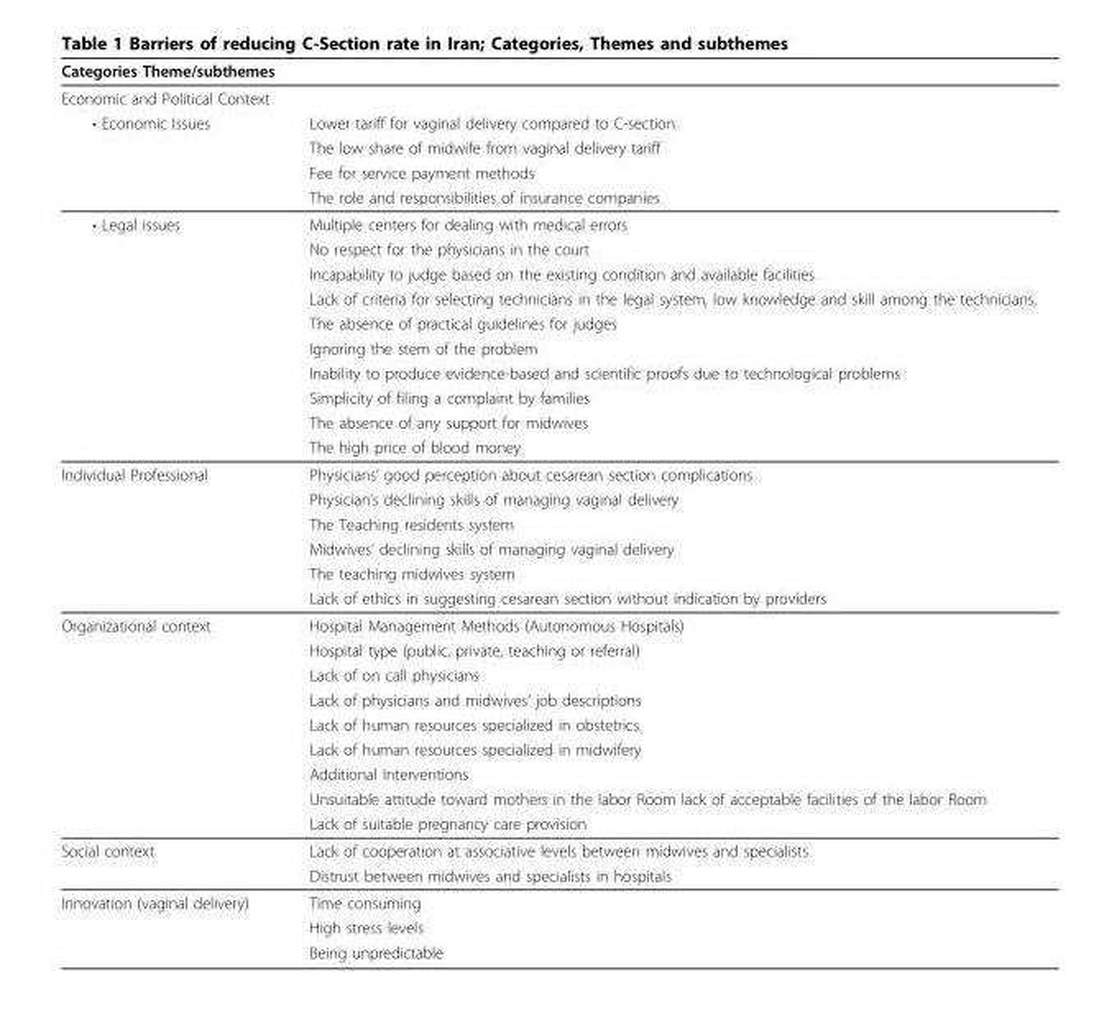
<table><thead><tr><td>Categories Theme/subthemes</td><td></td></tr></thead><tbody><tr><td colspan="2">Economic and Political Context</td></tr><tr><td rowspan="4">• Economic Issues</td><td>Lower tariff for vaginal delivery compared to C-section</td></tr><tr><td>The low share of midwife from vaginal delivery tariff</td></tr><tr><td>Fee for service payment methods</td></tr><tr><td>The role and responsibilities of insurance companies</td></tr><tr><td rowspan="10">• Legal issues</td><td>Multiple centers for dealing with medical errors</td></tr><tr><td>No respect for the physicians in the court</td></tr><tr><td>Incapability to judge based on the existing condition and available facilities</td></tr><tr><td>Lack of criteria for selecting technicians in the legal system, low knowledge and skill among the technicians,</td></tr><tr><td>The absence of practical guidelines for judges</td></tr><tr><td>Ignoring the stem of the problem</td></tr><tr><td>Inability to produce evidence-based and scientific proofs due to technological problems</td></tr><tr><td>Simplicity of filing a complaint by families</td></tr><tr><td>The absence of any support for midwives</td></tr><tr><td>The high price of blood money</td></tr><tr><td rowspan="6">Individual Professional</td><td>Physicians’ good perception about cesarean section complications</td></tr><tr><td>Physician’s declining skills of managing vaginal delivery</td></tr><tr><td>The Teaching residents system</td></tr><tr><td>Midwives’ declining skills of managing vaginal delivery</td></tr><tr><td>The teaching midwives system</td></tr><tr><td>Lack of ethics in suggesting cesarean section without indication by providers</td></tr><tr><td rowspan="9">Organizational context</td><td>Hospital Management Methods (Autonomous Hospitals)</td></tr><tr><td>Hospital type (public, private, teaching or referral)</td></tr><tr><td>Lack of on call physicians</td></tr><tr><td>Lack of physicians and midwives’ job descriptions</td></tr><tr><td>Lack of human resources specialized in obstetrics</td></tr><tr><td>Lack of human resources specialized in midwifery</td></tr><tr><td>Additional Interventions</td></tr><tr><td>Unsuitable attitude toward mothers in the labor Room lack of acceptable facilities of the labor Room</td></tr><tr><td>Lack of suitable pregnancy care provision</td></tr><tr><td rowspan="2">Social context</td><td>Lack of cooperation at associative levels between midwives and specialists</td></tr><tr><td>Distrust between midwives and specialists in hospitals</td></tr><tr><td rowspan="3">Innovation (vaginal delivery)</td><td>Time consuming</td></tr><tr><td>High stress levels</td></tr><tr><td>Being unpredictable</td></tr></tbody></table>